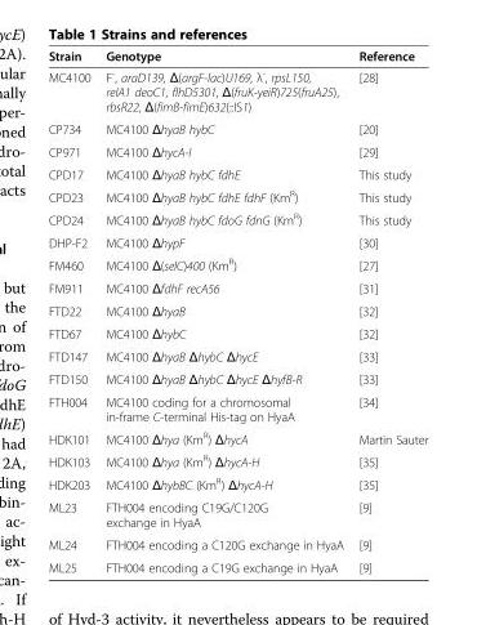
<table><thead><tr><td>Strain</td><td>Genotype</td><td>Reference</td></tr></thead><tbody><tr><td>MC4100</td><td>F<sup>-</sup>, araD139, Δ(argF-lac)U169, λ<sup>-</sup>, rpsL150, relA1 deoC1, flhD5301, Δ(fruK-yeiR)725(fruA25), rbsR22, Δ(fimB-fimE)632(::IS1)</td><td>[28]</td></tr><tr><td>CP734</td><td>MC4100 ΔhyaB hybC</td><td>[20]</td></tr><tr><td>CP971</td><td>MC4100 ΔhycA-I</td><td>[29]</td></tr><tr><td>CPD17</td><td>MC4100 ΔhyaB hybC fdhE</td><td>This study</td></tr><tr><td>CPD23</td><td>MC4100 ΔhyaB hybC fdhE fdhF (Km<sup>R</sup>)</td><td>This study</td></tr><tr><td>CPD24</td><td>MC4100 ΔhyaB hybC fdoG fdnG (Km<sup>R</sup>)</td><td>This study</td></tr><tr><td>DHP-F2</td><td>MC4100 ΔhypF</td><td>[30]</td></tr><tr><td>FM460</td><td>MC4100 Δ(selC)400 (Km<sup>R</sup>)</td><td>[27]</td></tr><tr><td>FM911</td><td>MC4100 ΔfdhF recA56</td><td>[31]</td></tr><tr><td>FTD22</td><td>MC4100 ΔhyaB</td><td>[32]</td></tr><tr><td>FTD67</td><td>MC4100 ΔhybC</td><td>[32]</td></tr><tr><td>FTD147</td><td>MC4100 ΔhyaB ΔhybC ΔhycE</td><td>[33]</td></tr><tr><td>FTD150</td><td>MC4100 ΔhyaB ΔhybC ΔhycE ΔhyfB-R</td><td>[33]</td></tr><tr><td>FTH004</td><td>MC4100 coding for a chromosomal in-frame C-terminal His-tag on HyaA</td><td>[34]</td></tr><tr><td>HDK101</td><td>MC4100 Δhya (Km<sup>R</sup>) ΔhycA</td><td>Martin Sauter</td></tr><tr><td>HDK103</td><td>MC4100 Δhya (Km<sup>R</sup>) ΔhycA-H</td><td>[35]</td></tr><tr><td>HDK203</td><td>MC4100 ΔhybBC (Km<sup>R</sup>) ΔhycA-H</td><td>[35]</td></tr><tr><td>ML23</td><td>FTH004 encoding C19G/C120G exchange in HyaA</td><td>[9]</td></tr><tr><td>ML24</td><td>FTH004 encoding a C120G exchange in HyaA</td><td>[9]</td></tr><tr><td>ML25</td><td>FTH004 encoding a C19G exchange in HyaA</td><td>[9]</td></tr></tbody></table>